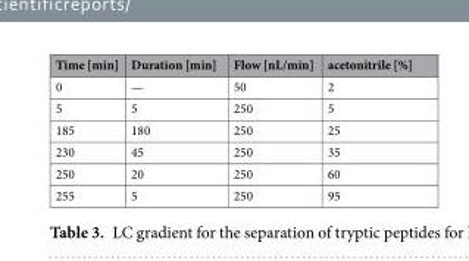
<table><thead><tr><td>Time [min]</td><td>Duration [min]</td><td>Flow [nL/min]</td><td>acetonitrile [%]</td></tr></thead><tbody><tr><td>0</td><td>—</td><td>50</td><td>2</td></tr><tr><td>5</td><td>5</td><td>250</td><td>5</td></tr><tr><td>185</td><td>180</td><td>250</td><td>25</td></tr><tr><td>230</td><td>45</td><td>250</td><td>35</td></tr><tr><td>250</td><td>20</td><td>250</td><td>60</td></tr><tr><td>255</td><td>5</td><td>250</td><td>95</td></tr></tbody></table>